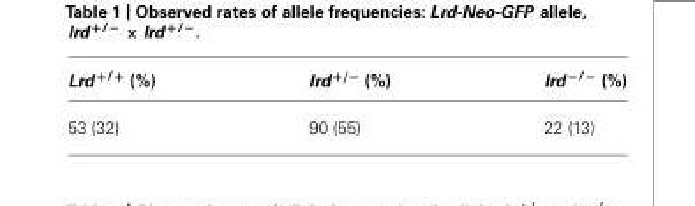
<table><thead><tr><td>Lrd <sup>+/+</sup> (%)</td><td>lrd <sup>+/−</sup> (%)</td><td>lrd <sup>−/−</sup> (%)</td></tr></thead><tbody><tr><td>53 (32)</td><td>90 (55)</td><td>22 (13)</td></tr></tbody></table>